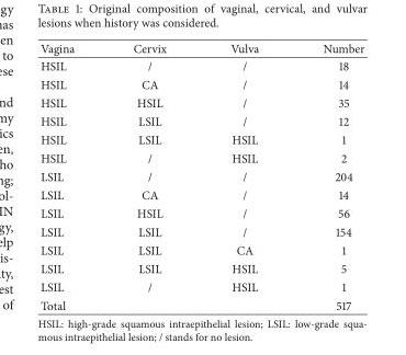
<table><thead><tr><td>Vagina</td><td>Cervix</td><td>Vulva</td><td>Number</td></tr></thead><tbody><tr><td>HSIL</td><td>/</td><td>/</td><td>18</td></tr><tr><td>HSIL</td><td>CA</td><td>/</td><td>14</td></tr><tr><td>HSIL</td><td>HSIL</td><td>/</td><td>35</td></tr><tr><td>HSIL</td><td>LSIL</td><td>/</td><td>12</td></tr><tr><td>HSIL</td><td>LSIL</td><td>HSIL</td><td>1</td></tr><tr><td>HSIL</td><td>/</td><td>HSIL</td><td>2</td></tr><tr><td>LSIL</td><td>/</td><td>/</td><td>204</td></tr><tr><td>LSIL</td><td>CA</td><td>/</td><td>14</td></tr><tr><td>LSIL</td><td>HSIL</td><td>/</td><td>56</td></tr><tr><td>LSIL</td><td>LSIL</td><td>/</td><td>154</td></tr><tr><td>LSIL</td><td>LSIL</td><td>CA</td><td>1</td></tr><tr><td>LSIL</td><td>LSIL</td><td>HSIL</td><td>5</td></tr><tr><td>LSIL</td><td>/</td><td>HSIL</td><td>1</td></tr><tr><td>Total</td><td></td><td></td><td>517</td></tr></tbody></table>